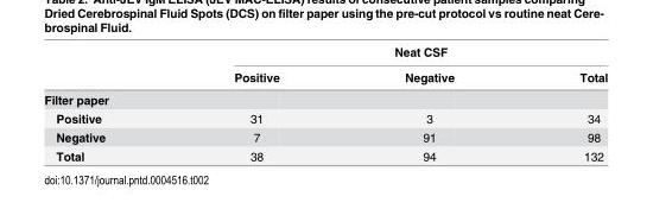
<table><thead><tr><td rowspan="2"></td><td colspan="3">Neat CSF</td></tr><tr><td>Positive</td><td>Negative</td><td>Total</td></tr></thead><tbody><tr><td colspan="4">Filter paper</td></tr><tr><td>Positive</td><td>31</td><td>3</td><td>34</td></tr><tr><td>Negative</td><td>7</td><td>91</td><td>98</td></tr><tr><td>Total</td><td>38</td><td>94</td><td>132</td></tr></tbody></table>